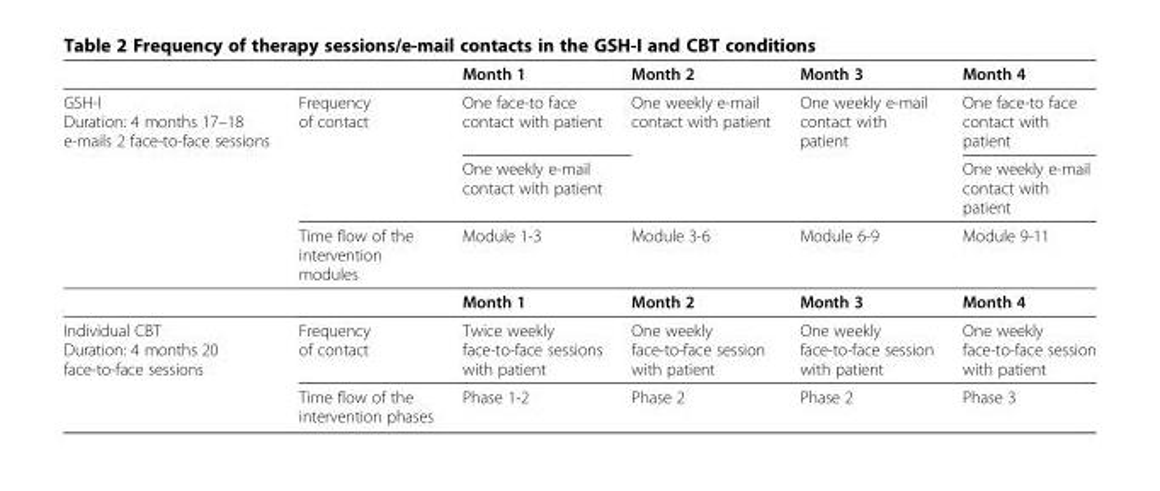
<table><thead><tr><td></td><td></td><td>Month 1</td><td>Month 2</td><td>Month 3</td><td>Month 4</td></tr></thead><tbody><tr><td rowspan="4">GSH-I Duration: 4 months 17–18 e-mails 2 face-to-face sessions</td><td rowspan="2">Frequency of contact</td><td>One face-to face contact with patient</td><td rowspan="2">One weekly e-mail contact with patient</td><td rowspan="2">One weekly e-mail contact with patient</td><td>One face-to face contact with patient</td></tr><tr><td>One weekly e-mail contact with patient</td><td>One weekly e-mail contact with patient</td></tr><tr><td>Time flow of the intervention modules</td><td>Module 1-3</td><td>Module 3-6</td><td>Module 6-9</td><td>Module 9-11</td></tr><tr><td></td><td>Month 1</td><td>Month 2</td><td>Month 3</td><td>Month 4</td></tr><tr><td rowspan="2">Individual CBT Duration: 4 months 20 face-to-face sessions</td><td>Frequency of contact</td><td>Twice weekly face-to-face sessions with patient</td><td>One weekly face-to-face session with patient</td><td>One weekly face-to-face session with patient</td><td>One weekly face-to-face session with patient</td></tr><tr><td>Time flow of the intervention phases</td><td>Phase 1-2</td><td>Phase 2</td><td>Phase 2</td><td>Phase 3</td></tr></tbody></table>